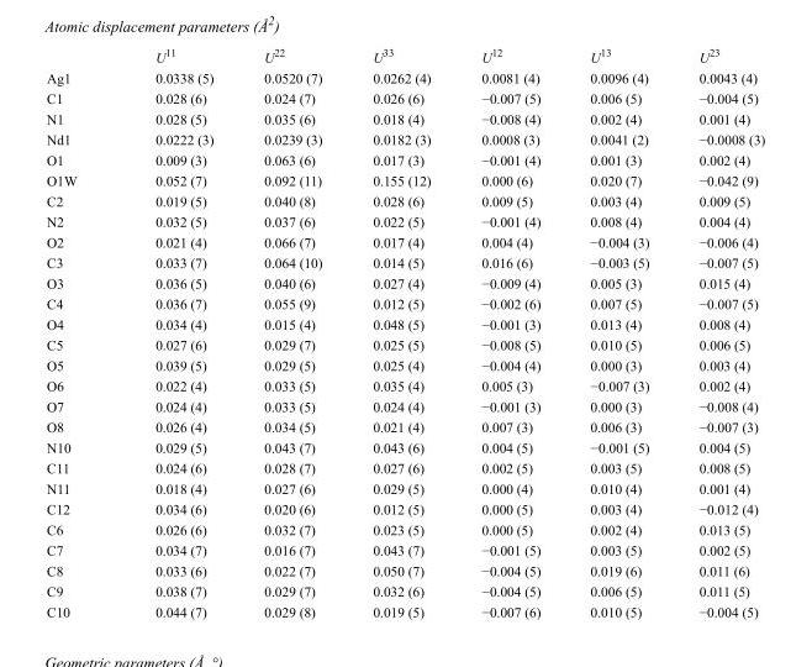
<table><thead><tr><td></td><td>U<sup>11</sup></td><td>U<sup>22</sup></td><td>U<sup>33</sup></td><td>U<sup>12</sup></td><td>U<sup>13</sup></td><td>U<sup>23</sup></td></tr></thead><tbody><tr><td>Ag1</td><td>0.0338 (5)</td><td>0.0520 (7)</td><td>0.0262 (4)</td><td>0.0081 (4)</td><td>0.0096 (4)</td><td>0.0043 (4)</td></tr><tr><td>C1</td><td>0.028 (6)</td><td>0.024 (7)</td><td>0.026 (6)</td><td>−0.007 (5)</td><td>0.006 (5)</td><td>−0.004 (5)</td></tr><tr><td>N1</td><td>0.028 (5)</td><td>0.035 (6)</td><td>0.018 (4)</td><td>−0.008 (4)</td><td>0.002 (4)</td><td>0.001 (4)</td></tr><tr><td>Nd1</td><td>0.0222 (3)</td><td>0.0239 (3)</td><td>0.0182 (3)</td><td>0.0008 (3)</td><td>0.0041 (2)</td><td>−0.0008 (3)</td></tr><tr><td>O1</td><td>0.009 (3)</td><td>0.063 (6)</td><td>0.017 (3)</td><td>−0.001 (4)</td><td>0.001 (3)</td><td>0.002 (4)</td></tr><tr><td>O1W</td><td>0.052 (7)</td><td>0.092 (11)</td><td>0.155 (12)</td><td>0.000 (6)</td><td>0.020 (7)</td><td>−0.042 (9)</td></tr><tr><td>C2</td><td>0.019 (5)</td><td>0.040 (8)</td><td>0.028 (6)</td><td>0.009 (5)</td><td>0.003 (4)</td><td>0.009 (5)</td></tr><tr><td>N2</td><td>0.032 (5)</td><td>0.037 (6)</td><td>0.022 (5)</td><td>−0.001 (4)</td><td>0.008 (4)</td><td>0.004 (4)</td></tr><tr><td>O2</td><td>0.021 (4)</td><td>0.066 (7)</td><td>0.017 (4)</td><td>0.004 (4)</td><td>−0.004 (3)</td><td>−0.006 (4)</td></tr><tr><td>C3</td><td>0.033 (7)</td><td>0.064 (10)</td><td>0.014 (5)</td><td>0.016 (6)</td><td>−0.003 (5)</td><td>−0.007 (5)</td></tr><tr><td>O3</td><td>0.036 (5)</td><td>0.040 (6)</td><td>0.027 (4)</td><td>−0.009 (4)</td><td>0.005 (3)</td><td>0.015 (4)</td></tr><tr><td>C4</td><td>0.036 (7)</td><td>0.055 (9)</td><td>0.012 (5)</td><td>−0.002 (6)</td><td>0.007 (5)</td><td>−0.007 (5)</td></tr><tr><td>O4</td><td>0.034 (4)</td><td>0.015 (4)</td><td>0.048 (5)</td><td>−0.001 (3)</td><td>0.013 (4)</td><td>0.008 (4)</td></tr><tr><td>C5</td><td>0.027 (6)</td><td>0.029 (7)</td><td>0.025 (5)</td><td>−0.008 (5)</td><td>0.010 (5)</td><td>0.006 (5)</td></tr><tr><td>O5</td><td>0.039 (5)</td><td>0.029 (5)</td><td>0.025 (4)</td><td>−0.004 (4)</td><td>0.000 (3)</td><td>0.003 (4)</td></tr><tr><td>O6</td><td>0.022 (4)</td><td>0.033 (5)</td><td>0.035 (4)</td><td>0.005 (3)</td><td>−0.007 (3)</td><td>0.002 (4)</td></tr><tr><td>O7</td><td>0.024 (4)</td><td>0.033 (5)</td><td>0.024 (4)</td><td>−0.001 (3)</td><td>0.000 (3)</td><td>−0.008 (4)</td></tr><tr><td>O8</td><td>0.026 (4)</td><td>0.034 (5)</td><td>0.021 (4)</td><td>0.007 (3)</td><td>0.006 (3)</td><td>−0.007 (3)</td></tr><tr><td>N10</td><td>0.029 (5)</td><td>0.043 (7)</td><td>0.043 (6)</td><td>0.004 (5)</td><td>−0.001 (5)</td><td>0.004 (5)</td></tr><tr><td>C11</td><td>0.024 (6)</td><td>0.028 (7)</td><td>0.027 (6)</td><td>0.002 (5)</td><td>0.003 (5)</td><td>0.008 (5)</td></tr><tr><td>N11</td><td>0.018 (4)</td><td>0.027 (6)</td><td>0.029 (5)</td><td>0.000 (4)</td><td>0.010 (4)</td><td>0.001 (4)</td></tr><tr><td>C12</td><td>0.034 (6)</td><td>0.020 (6)</td><td>0.012 (5)</td><td>0.000 (5)</td><td>0.003 (4)</td><td>−0.012 (4)</td></tr><tr><td>C6</td><td>0.026 (6)</td><td>0.032 (7)</td><td>0.023 (5)</td><td>0.000 (5)</td><td>0.002 (4)</td><td>0.013 (5)</td></tr><tr><td>C7</td><td>0.034 (7)</td><td>0.016 (7)</td><td>0.043 (7)</td><td>−0.001 (5)</td><td>0.003 (5)</td><td>0.002 (5)</td></tr><tr><td>C8</td><td>0.033 (6)</td><td>0.022 (7)</td><td>0.050 (7)</td><td>−0.004 (5)</td><td>0.019 (6)</td><td>0.011 (6)</td></tr><tr><td>C9</td><td>0.038 (7)</td><td>0.029 (7)</td><td>0.032 (6)</td><td>−0.004 (5)</td><td>0.006 (5)</td><td>0.011 (5)</td></tr><tr><td>C10</td><td>0.044 (7)</td><td>0.029 (8)</td><td>0.019 (5)</td><td>−0.007 (6)</td><td>0.010 (5)</td><td>−0.004 (5)</td></tr></tbody></table>